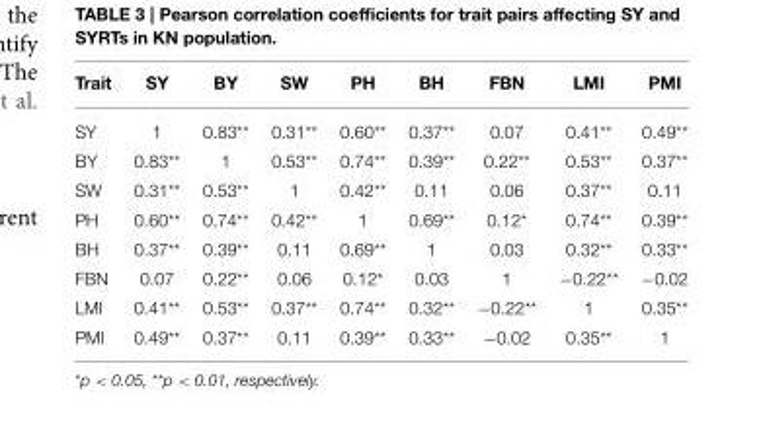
<table><thead><tr><td>Trait</td><td>SY</td><td>BY</td><td>SW</td><td>PH</td><td>BH</td><td>FBN</td><td>LMI</td><td>PMI</td></tr></thead><tbody><tr><td>SY</td><td>1</td><td>0.83**</td><td>0.31**</td><td>0.60**</td><td>0.37**</td><td>0.07</td><td>0.41**</td><td>0.49**</td></tr><tr><td>BY</td><td>0.83**</td><td>1</td><td>0.53**</td><td>0.74**</td><td>0.39**</td><td>0.22**</td><td>0.53**</td><td>0.37**</td></tr><tr><td>SW</td><td>0.31**</td><td>0.53**</td><td>1</td><td>0.42**</td><td>0.11</td><td>0.06</td><td>0.37**</td><td>0.11</td></tr><tr><td>PH</td><td>0.60**</td><td>0.74**</td><td>0.42**</td><td>1</td><td>0.69**</td><td>0.12*</td><td>0.74**</td><td>0.39**</td></tr><tr><td>BH</td><td>0.37**</td><td>0.39**</td><td>0.11</td><td>0.69**</td><td>1</td><td>0.03</td><td>0.32**</td><td>0.33**</td></tr><tr><td>FBN</td><td>0.07</td><td>0.22**</td><td>0.06</td><td>0.12*</td><td>0.03</td><td>1</td><td>−0.22**</td><td>−0.02</td></tr><tr><td>LMI</td><td>0.41**</td><td>0.53**</td><td>0.37**</td><td>0.74**</td><td>0.32**</td><td>−0.22**</td><td>1</td><td>0.35**</td></tr><tr><td>PMI</td><td>0.49**</td><td>0.37**</td><td>0.11</td><td>0.39**</td><td>0.33**</td><td>−0.02</td><td>0.35**</td><td>1</td></tr></tbody></table>